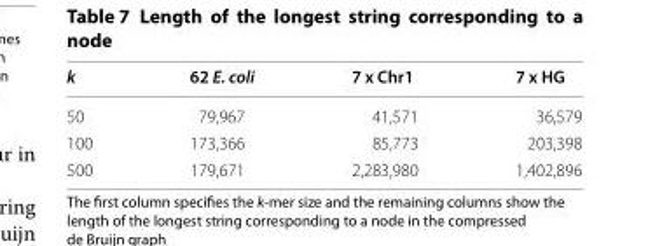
<table><thead><tr><td>k</td><td>62 E. coli</td><td>7 x Chr1</td><td>7 x HG</td></tr></thead><tbody><tr><td>50</td><td>79,967</td><td>41,571</td><td>36,579</td></tr><tr><td>100</td><td>173,366</td><td>85,773</td><td>203,398</td></tr><tr><td>500</td><td>179,671</td><td>2,283,980</td><td>1,402,896</td></tr></tbody></table>